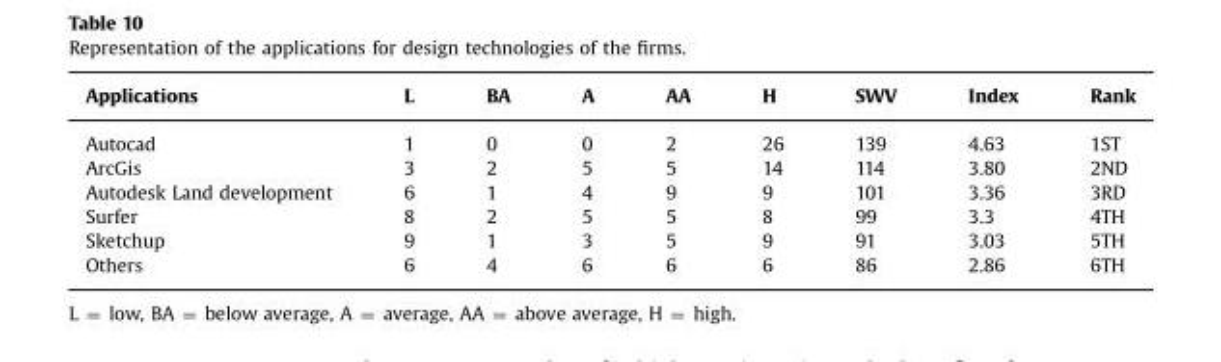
<table><thead><tr><td>Applications</td><td>L</td><td>BA</td><td>A</td><td>AA</td><td>H</td><td>SWV</td><td>Index</td><td>Rank</td></tr></thead><tbody><tr><td>Autocad</td><td>1</td><td>0</td><td>0</td><td>2</td><td>26</td><td>139</td><td>4.63</td><td>1ST</td></tr><tr><td>ArcGis</td><td>3</td><td>2</td><td>5</td><td>5</td><td>14</td><td>114</td><td>3.80</td><td>2ND</td></tr><tr><td>Autodesk Land development</td><td>6</td><td>1</td><td>4</td><td>9</td><td>9</td><td>101</td><td>3.36</td><td>3RD</td></tr><tr><td>Surfer</td><td>8</td><td>2</td><td>5</td><td>5</td><td>8</td><td>99</td><td>3.3</td><td>4TH</td></tr><tr><td>Sketchup</td><td>9</td><td>1</td><td>3</td><td>5</td><td>9</td><td>91</td><td>3.03</td><td>5TH</td></tr><tr><td>Others</td><td>6</td><td>4</td><td>6</td><td>6</td><td>6</td><td>86</td><td>2.86</td><td>6TH</td></tr></tbody></table>